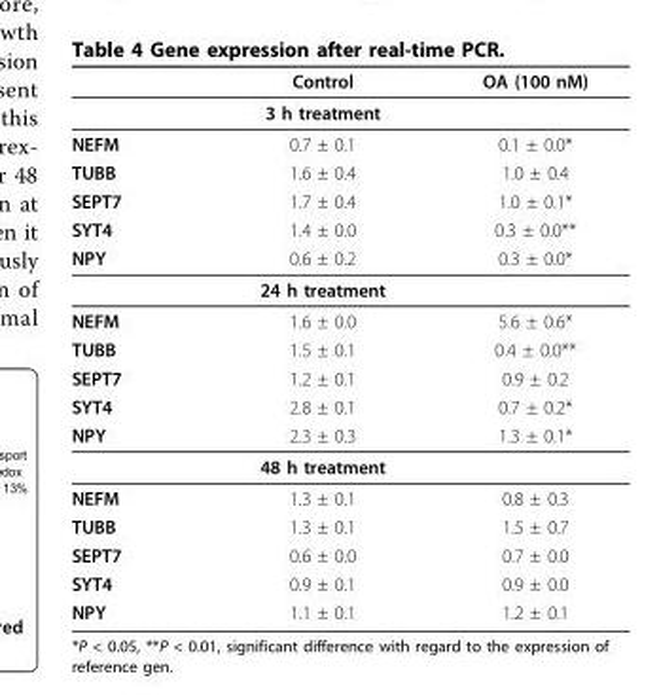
<table><thead><tr><td></td><td>Control</td><td>OA (100 nM)</td></tr></thead><tbody><tr><td></td><td>3 h treatment</td><td></td></tr><tr><td>NEFM</td><td>0.7 ± 0.1</td><td>0.1 ± 0.0*</td></tr><tr><td>TUBB</td><td>1.6 ± 0.4</td><td>1.0 ± 0.4</td></tr><tr><td>SEPT7</td><td>1.7 ± 0.4</td><td>1.0 ± 0.1*</td></tr><tr><td>SYT4</td><td>1.4 ± 0.0</td><td>0.3 ± 0.0**</td></tr><tr><td rowspan="2">NPY</td><td>0.6 ± 0.2</td><td>0.3 ± 0.0*</td></tr><tr><td>24 h treatment</td><td></td></tr><tr><td>NEFM</td><td>1.6 ± 0.0</td><td>5.6 ± 0.6*</td></tr><tr><td>TUBB</td><td>1.5 ± 0.1</td><td>0.4 ± 0.0**</td></tr><tr><td>SEPT7</td><td>1.2 ± 0.1</td><td>0.9 ± 0.2</td></tr><tr><td>SYT4</td><td>2.8 ± 0.1</td><td>0.7 ± 0.2*</td></tr><tr><td rowspan="2">NPY</td><td>2.3 ± 0.3</td><td>1.3 ± 0.1*</td></tr><tr><td>48 h treatment</td><td></td></tr><tr><td>NEFM</td><td>1.3 ± 0.1</td><td>0.8 ± 0.3</td></tr><tr><td>TUBB</td><td>1.3 ± 0.1</td><td>1.5 ± 0.7</td></tr><tr><td>SEPT7</td><td>0.6 ± 0.0</td><td>0.7 ± 0.0</td></tr><tr><td>SYT4</td><td>0.9 ± 0.1</td><td>0.9 ± 0.0</td></tr><tr><td>NPY</td><td>1.1 ± 0.1</td><td>1.2 ± 0.1</td></tr></tbody></table>